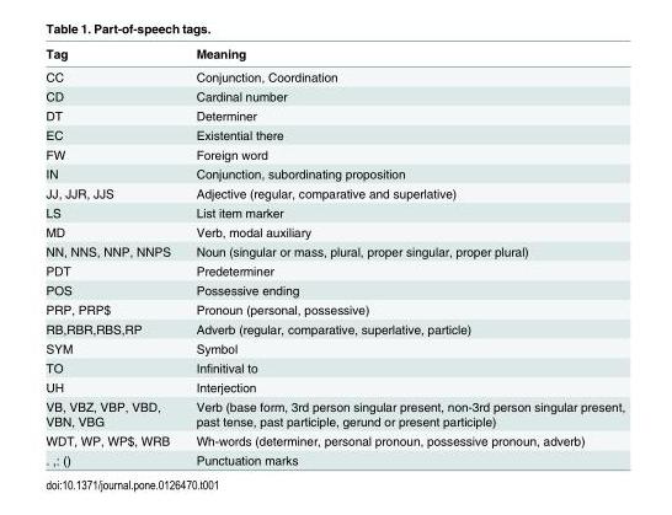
<table><thead><tr><td>Tag</td><td>Meaning</td></tr></thead><tbody><tr><td>CC</td><td>Conjunction, Coordination</td></tr><tr><td>CD</td><td>Cardinal number</td></tr><tr><td>DT</td><td>Determiner</td></tr><tr><td>EC</td><td>Existential there</td></tr><tr><td>FW</td><td>Foreign word</td></tr><tr><td>IN</td><td>Conjunction, subordinating proposition</td></tr><tr><td>JJ, JJR, JJS</td><td>Adjective (regular, comparative and superlative)</td></tr><tr><td>LS</td><td>List item marker</td></tr><tr><td>MD</td><td>Verb, modal auxiliary</td></tr><tr><td>NN, NNS, NNP, NNPS</td><td>Noun (singular or mass, plural, proper singular, proper plural)</td></tr><tr><td>PDT</td><td>Predeterminer</td></tr><tr><td>POS</td><td>Possessive ending</td></tr><tr><td>PRP, PRP$</td><td>Pronoun (personal, possessive)</td></tr><tr><td>RB,RBR,RBS,RP</td><td>Adverb (regular, comparative, superlative, particle)</td></tr><tr><td>SYM</td><td>Symbol</td></tr><tr><td>TO</td><td>Infinitival to</td></tr><tr><td>UH</td><td>Interjection</td></tr><tr><td>VB, VBZ, VBP, VBD, VBN, VBG</td><td>Verb (base form, 3rd person singular present, non-3rd person singular present, past tense, past participle, gerund or present participle)</td></tr><tr><td>WDT, WP, WP$, WRB</td><td>Wh-words (determiner, personal pronoun, possessive pronoun, adverb)</td></tr><tr><td>. ,: ()</td><td>Punctuation marks</td></tr></tbody></table>